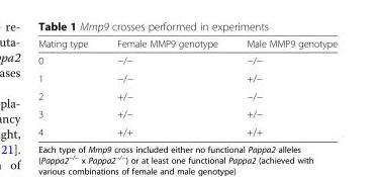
<table><thead><tr><td>Mating type</td><td>Female MMP9 genotype</td><td>Male MMP9 genotype</td></tr></thead><tbody><tr><td>0</td><td>−/−</td><td>−/−</td></tr><tr><td>1</td><td>−/−</td><td>+/−</td></tr><tr><td>2</td><td>+/−</td><td>−/−</td></tr><tr><td>3</td><td>+/−</td><td>+/−</td></tr><tr><td>4</td><td>+/+</td><td>+/+</td></tr></tbody></table>